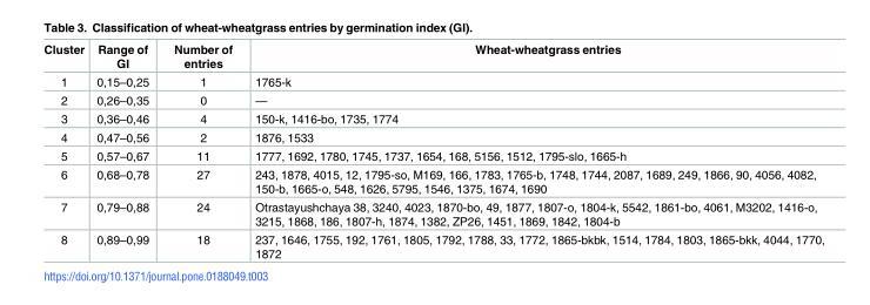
<table><thead><tr><td>Cluster</td><td>Range of GI</td><td>Number of entries</td><td>Wheat-wheatgrass entries</td></tr></thead><tbody><tr><td>1</td><td>0,15–0,25</td><td>1</td><td>1765-k</td></tr><tr><td>2</td><td>0,26–0,35</td><td>0</td><td>—</td></tr><tr><td>3</td><td>0,36–0,46</td><td>4</td><td>150-k, 1416-bo, 1735, 1774</td></tr><tr><td>4</td><td>0,47–0,56</td><td>2</td><td>1876, 1533</td></tr><tr><td>5</td><td>0,57–0,67</td><td>11</td><td>1777, 1692, 1780, 1745, 1737, 1654, 168, 5156, 1512, 1795-slo, 1665-h</td></tr><tr><td>6</td><td>0,68–0,78</td><td>27</td><td>243, 1878, 4015, 12, 1795-so, M169, 166, 1783, 1765-b, 1748, 1744, 2087, 1689, 249, 1866, 90, 4056, 4082, 150-b, 1665-o, 548, 1626, 5795, 1546, 1375, 1674, 1690</td></tr><tr><td>7</td><td>0,79–0,88</td><td>24</td><td>Otrastayushchaya 38, 3240, 4023, 1870-bo, 49, 1877, 1807-o, 1804-k, 5542, 1861-bo, 4061, M3202, 1416-o, 3215, 1868, 186, 1807-h, 1874, 1382, ZP26, 1451, 1869, 1842, 1804-b</td></tr><tr><td>8</td><td>0,89–0,99</td><td>18</td><td>237, 1646, 1755, 192, 1761, 1805, 1792, 1788, 33, 1772, 1865-bkbk, 1514, 1784, 1803, 1865-bkk, 4044, 1770, 1872</td></tr></tbody></table>